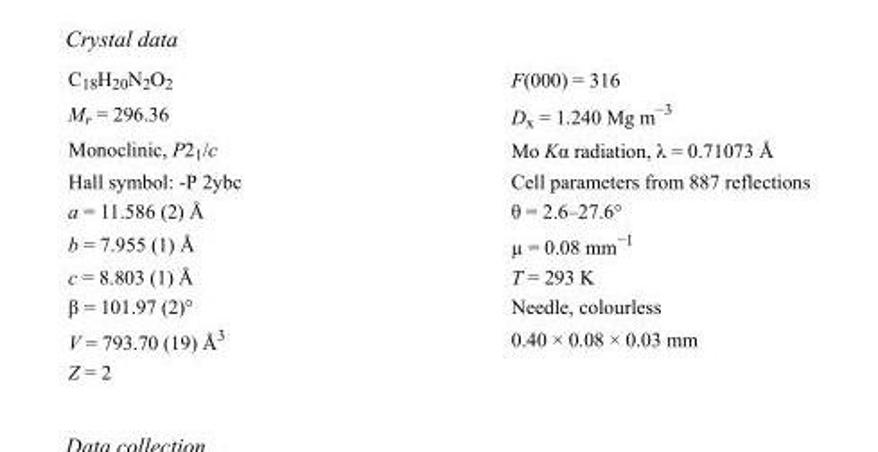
<table><tbody><tr><td>C<sub>18</sub>H<sub>20</sub>N<sub>2</sub>O<sub>2</sub></td><td>F(000) = 316</td></tr><tr><td>M<sub>r</sub> = 296.36</td><td>D<sub>x</sub> = 1.240 Mg m<sup>−3</sup></td></tr><tr><td>Monoclinic, P2<sub>1</sub>/c</td><td>Mo Kα radiation, λ = 0.71073 Å</td></tr><tr><td>Hall symbol: -P 2ybc</td><td>Cell parameters from 887 reflections</td></tr><tr><td>a = 11.586 (2) Å</td><td>θ = 2.6–27.6°</td></tr><tr><td>b = 7.955 (1) Å</td><td>µ = 0.08 mm<sup>−1</sup></td></tr><tr><td>c = 8.803 (1) Å</td><td>T = 293 K</td></tr><tr><td>β = 101.97 (2)°</td><td>Needle, colourless</td></tr><tr><td>V = 793.70 (19) Å<sup>3</sup></td><td>0.40 × 0.08 × 0.03 mm</td></tr><tr><td>Z = 2</td><td></td></tr></tbody></table>